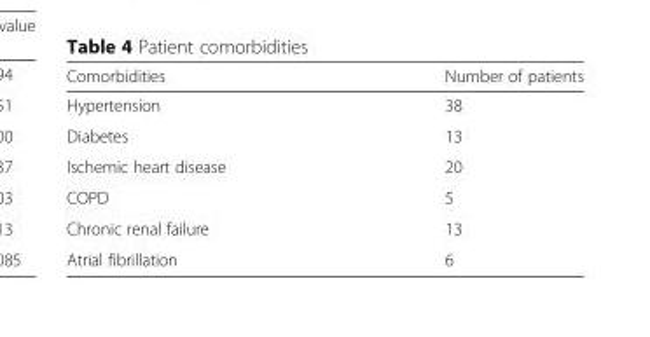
<table><thead><tr><td>Comorbidities</td><td>Number of patients</td></tr></thead><tbody><tr><td>Hypertension</td><td>38</td></tr><tr><td>Diabetes</td><td>13</td></tr><tr><td>Ischemic heart disease</td><td>20</td></tr><tr><td>COPD</td><td>5</td></tr><tr><td>Chronic renal failure</td><td>13</td></tr><tr><td>Atrial fibrillation</td><td>6</td></tr></tbody></table>